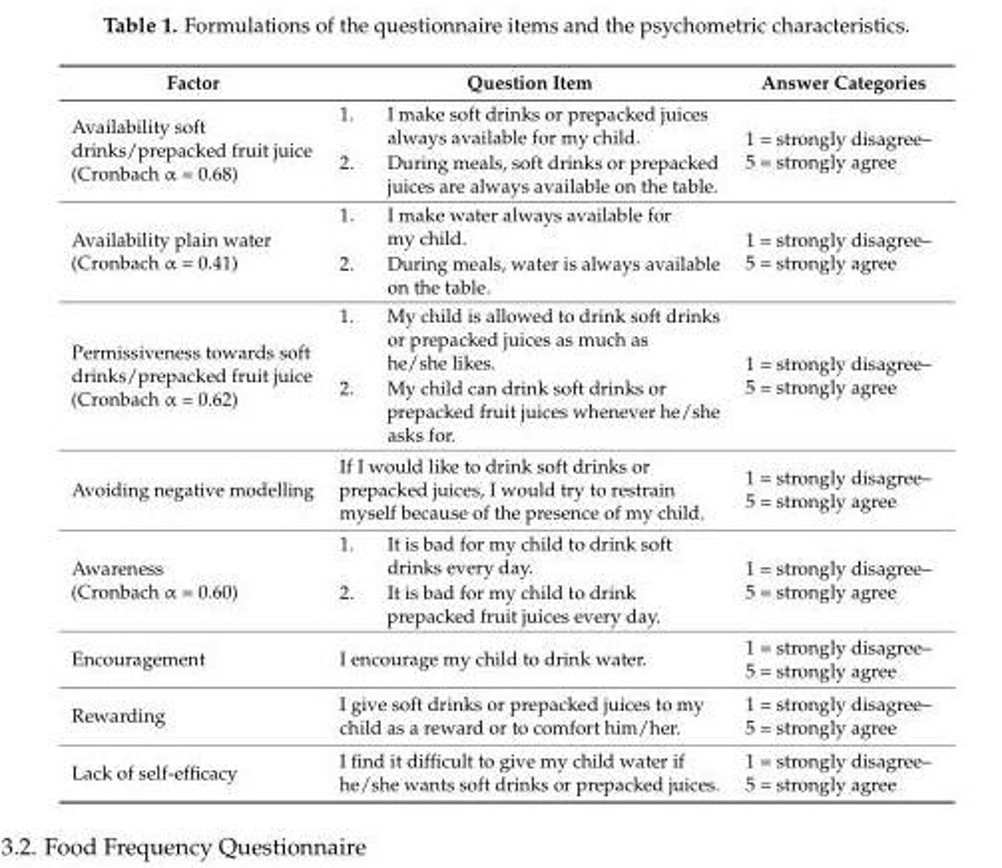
<table><thead><tr><td>Factor</td><td>Question Item</td><td>Answer Categories</td></tr></thead><tbody><tr><td>Availability soft drinks/prepacked fruit juice (Cronbach α = 0.68)</td><td>1. I make soft drinks or prepacked juices always available for my child. 2. During meals, soft drinks or prepacked juices are always available on the table.</td><td>1 = strongly disagree– 5 = strongly agree</td></tr><tr><td>Availability plain water (Cronbach α = 0.41)</td><td>1. I make water always available for my child. 2. During meals, water is always available on the table.</td><td>1 = strongly disagree– 5 = strongly agree</td></tr><tr><td>Permissiveness towards soft drinks/prepacked fruit juice (Cronbach α = 0.62)</td><td>1. My child is allowed to drink soft drinks or prepacked juices as much as he/she likes. 2. My child can drink soft drinks or prepacked fruit juices whenever he/she asks for.</td><td>1 = strongly disagree– 5 = strongly agree</td></tr><tr><td>Avoiding negative modelling</td><td>If I would like to drink soft drinks or prepacked juices, I would try to restrain myself because of the presence of my child.</td><td>1 = strongly disagree– 5 = strongly agree</td></tr><tr><td>Awareness (Cronbach α = 0.60)</td><td>1. It is bad for my child to drink soft drinks every day. 2. It is bad for my child to drink prepacked fruit juices every day.</td><td>1 = strongly disagree– 5 = strongly agree</td></tr><tr><td>Encouragement</td><td>I encourage my child to drink water.</td><td>1 = strongly disagree– 5 = strongly agree</td></tr><tr><td>Rewarding</td><td>I give soft drinks or prepacked juices to my child as a reward or to comfort him/her.</td><td>1 = strongly disagree– 5 = strongly agree</td></tr><tr><td>Lack of self-efficacy</td><td>I find it difficult to give my child water if he/she wants soft drinks or prepacked juices.</td><td>1 = strongly disagree– 5 = strongly agree</td></tr></tbody></table>